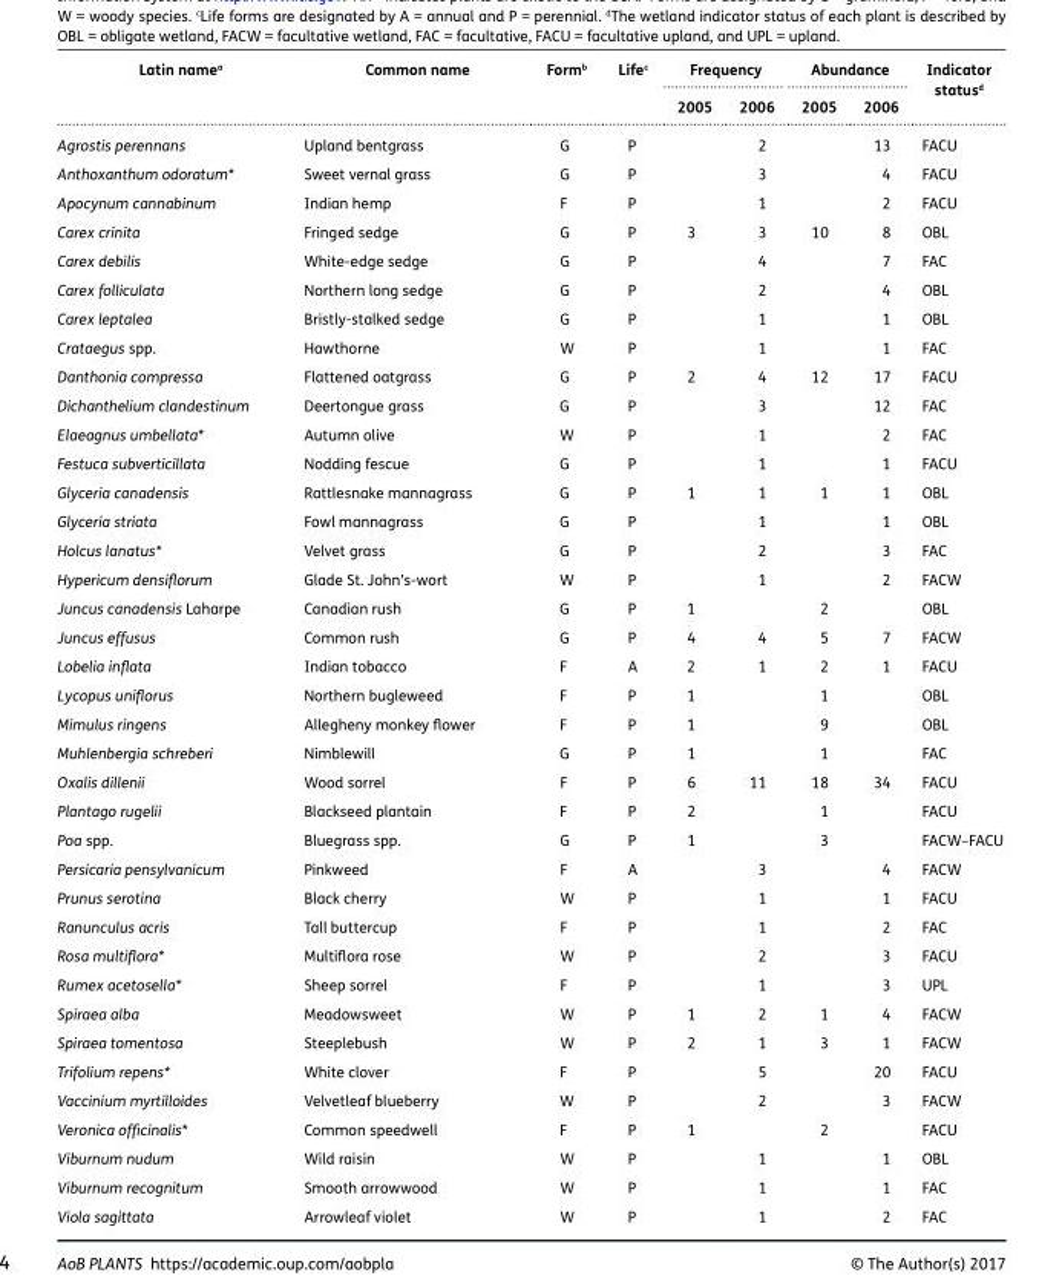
<table><thead><tr><td rowspan="2">Latin name<sup>a</sup></td><td rowspan="2">Common name</td><td rowspan="2">Form<sup>b</sup></td><td rowspan="2">Life<sup>c</sup></td><td colspan="2">Frequency</td><td colspan="2">Abundance</td><td rowspan="2">Indicator status<sup>d</sup></td></tr><tr><td>2005</td><td>2006</td><td>2005</td><td>2006</td></tr></thead><tbody><tr><td>Agrostis perennans</td><td>Upland bentgrass</td><td>G</td><td>P</td><td></td><td>2</td><td></td><td>13</td><td>FACU</td></tr><tr><td>Anthoxanthum odoratum*</td><td>Sweet vernal grass</td><td>G</td><td>P</td><td></td><td>3</td><td></td><td>4</td><td>FACU</td></tr><tr><td>Apocynum cannabinum</td><td>Indian hemp</td><td>F</td><td>P</td><td></td><td>1</td><td></td><td>2</td><td>FACU</td></tr><tr><td>Carex crinita</td><td>Fringed sedge</td><td>G</td><td>P</td><td>3</td><td>3</td><td>10</td><td>8</td><td>OBL</td></tr><tr><td>Carex debilis</td><td>White-edge sedge</td><td>G</td><td>P</td><td></td><td>4</td><td></td><td>7</td><td>FAC</td></tr><tr><td>Carex folliculata</td><td>Northern long sedge</td><td>G</td><td>P</td><td></td><td>2</td><td></td><td>4</td><td>OBL</td></tr><tr><td>Carex leptalea</td><td>Bristly-stalked sedge</td><td>G</td><td>P</td><td></td><td>1</td><td></td><td>1</td><td>OBL</td></tr><tr><td>Crataegus spp.</td><td>Hawthorne</td><td>W</td><td>P</td><td></td><td>1</td><td></td><td>1</td><td>FAC</td></tr><tr><td>Danthonia compressa</td><td>Flattened oatgrass</td><td>G</td><td>P</td><td>2</td><td>4</td><td>12</td><td>17</td><td>FACU</td></tr><tr><td>Dichanthelium clandestinum</td><td>Deertongue grass</td><td>G</td><td>P</td><td></td><td>3</td><td></td><td>12</td><td>FAC</td></tr><tr><td>Elaeagnus umbellata*</td><td>Autumn olive</td><td>W</td><td>P</td><td></td><td>1</td><td></td><td>2</td><td>FAC</td></tr><tr><td>Festuca subverticillata</td><td>Nodding fescue</td><td>G</td><td>P</td><td></td><td>1</td><td></td><td>1</td><td>FACU</td></tr><tr><td>Glyceria canadensis</td><td>Rattlesnake mannagrass</td><td>G</td><td>P</td><td>1</td><td>1</td><td>1</td><td>1</td><td>OBL</td></tr><tr><td>Glyceria striata</td><td>Fowl mannagrass</td><td>G</td><td>P</td><td></td><td>1</td><td></td><td>1</td><td>OBL</td></tr><tr><td>Holcus lanatus*</td><td>Velvet grass</td><td>G</td><td>P</td><td></td><td>2</td><td></td><td>3</td><td>FAC</td></tr><tr><td>Hypericum densiflorum</td><td>Glade St. John’s-wort</td><td>W</td><td>P</td><td></td><td>1</td><td></td><td>2</td><td>FACW</td></tr><tr><td>Juncus canadensis Laharpe</td><td>Canadian rush</td><td>G</td><td>P</td><td>1</td><td></td><td>2</td><td></td><td>OBL</td></tr><tr><td>Juncus effusus</td><td>Common rush</td><td>G</td><td>P</td><td>4</td><td>4</td><td>5</td><td>7</td><td>FACW</td></tr><tr><td>Lobelia inflata</td><td>Indian tobacco</td><td>F</td><td>A</td><td>2</td><td>1</td><td>2</td><td>1</td><td>FACU</td></tr><tr><td>Lycopus uniflorus</td><td>Northern bugleweed</td><td>F</td><td>P</td><td>1</td><td></td><td>1</td><td></td><td>OBL</td></tr><tr><td>Mimulus ringens</td><td>Allegheny monkey flower</td><td>F</td><td>P</td><td>1</td><td></td><td>9</td><td></td><td>OBL</td></tr><tr><td>Muhlenbergia schreberi</td><td>Nimblewill</td><td>G</td><td>P</td><td>1</td><td></td><td>1</td><td></td><td>FAC</td></tr><tr><td>Oxalis dillenii</td><td>Wood sorrel</td><td>F</td><td>P</td><td>6</td><td>11</td><td>18</td><td>34</td><td>FACU</td></tr><tr><td>Plantago rugelii</td><td>Blackseed plantain</td><td>F</td><td>P</td><td>2</td><td></td><td>1</td><td></td><td>FACU</td></tr><tr><td>Poa spp.</td><td>Bluegrass spp.</td><td>G</td><td>P</td><td>1</td><td></td><td>3</td><td></td><td>FACW–FACU</td></tr><tr><td>Persicaria pensylvanicum</td><td>Pinkweed</td><td>F</td><td>A</td><td></td><td>3</td><td></td><td>4</td><td>FACW</td></tr><tr><td>Prunus serotina</td><td>Black cherry</td><td>W</td><td>P</td><td></td><td>1</td><td></td><td>1</td><td>FACU</td></tr><tr><td>Ranunculus acris</td><td>Tall buttercup</td><td>F</td><td>P</td><td></td><td>1</td><td></td><td>2</td><td>FAC</td></tr><tr><td>Rosa multiflora*</td><td>Multiflora rose</td><td>W</td><td>P</td><td></td><td>2</td><td></td><td>3</td><td>FACU</td></tr><tr><td>Rumex acetosella*</td><td>Sheep sorrel</td><td>F</td><td>P</td><td></td><td>1</td><td></td><td>3</td><td>UPL</td></tr><tr><td>Spiraea alba</td><td>Meadowsweet</td><td>W</td><td>P</td><td>1</td><td>2</td><td>1</td><td>4</td><td>FACW</td></tr><tr><td>Spiraea tomentosa</td><td>Steeplebush</td><td>W</td><td>P</td><td>2</td><td>1</td><td>3</td><td>1</td><td>FACW</td></tr><tr><td>Trifolium repens*</td><td>White clover</td><td>F</td><td>P</td><td></td><td>5</td><td></td><td>20</td><td>FACU</td></tr><tr><td>Vaccinium myrtilloides</td><td>Velvetleaf blueberry</td><td>W</td><td>P</td><td></td><td>2</td><td></td><td>3</td><td>FACW</td></tr><tr><td>Veronica officinalis*</td><td>Common speedwell</td><td>F</td><td>P</td><td>1</td><td></td><td>2</td><td></td><td>FACU</td></tr><tr><td>Viburnum nudum</td><td>Wild raisin</td><td>W</td><td>P</td><td></td><td>1</td><td></td><td>1</td><td>OBL</td></tr><tr><td>Viburnum recognitum</td><td>Smooth arrowwood</td><td>W</td><td>P</td><td></td><td>1</td><td></td><td>1</td><td>FAC</td></tr><tr><td>Viola sagittata</td><td>Arrowleaf violet</td><td>W</td><td>P</td><td></td><td>1</td><td></td><td>2</td><td>FAC</td></tr></tbody></table>